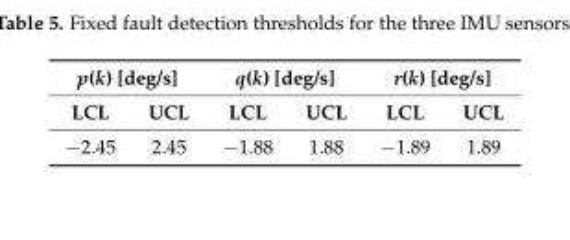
<table><thead><tr><td colspan="2">p(k) [deg/s]</td><td colspan="2">q(k) [deg/s]</td><td colspan="2">r(k) [deg/s]</td></tr><tr><td>LCL</td><td>UCL</td><td>LCL</td><td>UCL</td><td>LCL</td><td>UCL</td></tr></thead><tbody><tr><td>−2.45</td><td>2.45</td><td>−1.88</td><td>1.88</td><td>−1.89</td><td>1.89</td></tr></tbody></table>